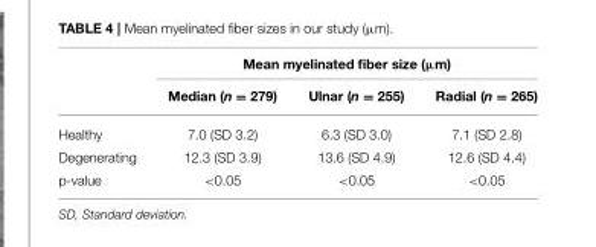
<table><thead><tr><td rowspan="2"></td><td colspan="3">Mean myelinated fiber size (µm)</td></tr><tr><td>Median (n = 279)</td><td>Ulnar (n = 255)</td><td>Radial (n = 265)</td></tr></thead><tbody><tr><td>Healthy</td><td>7.0 (SD 3.2)</td><td>6.3 (SD 3.0)</td><td>7.1 (SD 2.8)</td></tr><tr><td>Degenerating</td><td>12.3 (SD 3.9)</td><td>13.6 (SD 4.9)</td><td>12.6 (SD 4.4)</td></tr><tr><td>p-value</td><td>&lt;0.05</td><td>&lt;0.05</td><td>&lt;0.05</td></tr></tbody></table>